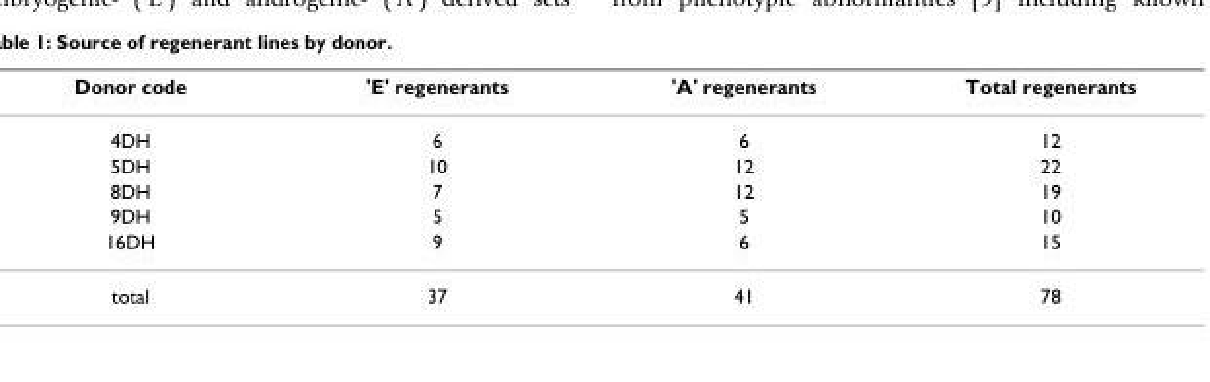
<table><thead><tr><td>Donor code</td><td>&#x27;E&#x27; regenerants</td><td>&#x27;A&#x27; regenerants</td><td>Total regenerants</td></tr></thead><tbody><tr><td>4DH</td><td>6</td><td>6</td><td>12</td></tr><tr><td>5DH</td><td>10</td><td>12</td><td>22</td></tr><tr><td>8DH</td><td>7</td><td>12</td><td>19</td></tr><tr><td>9DH</td><td>5</td><td>5</td><td>10</td></tr><tr><td>16DH</td><td>9</td><td>6</td><td>15</td></tr><tr><td>total</td><td>37</td><td>41</td><td>78</td></tr></tbody></table>